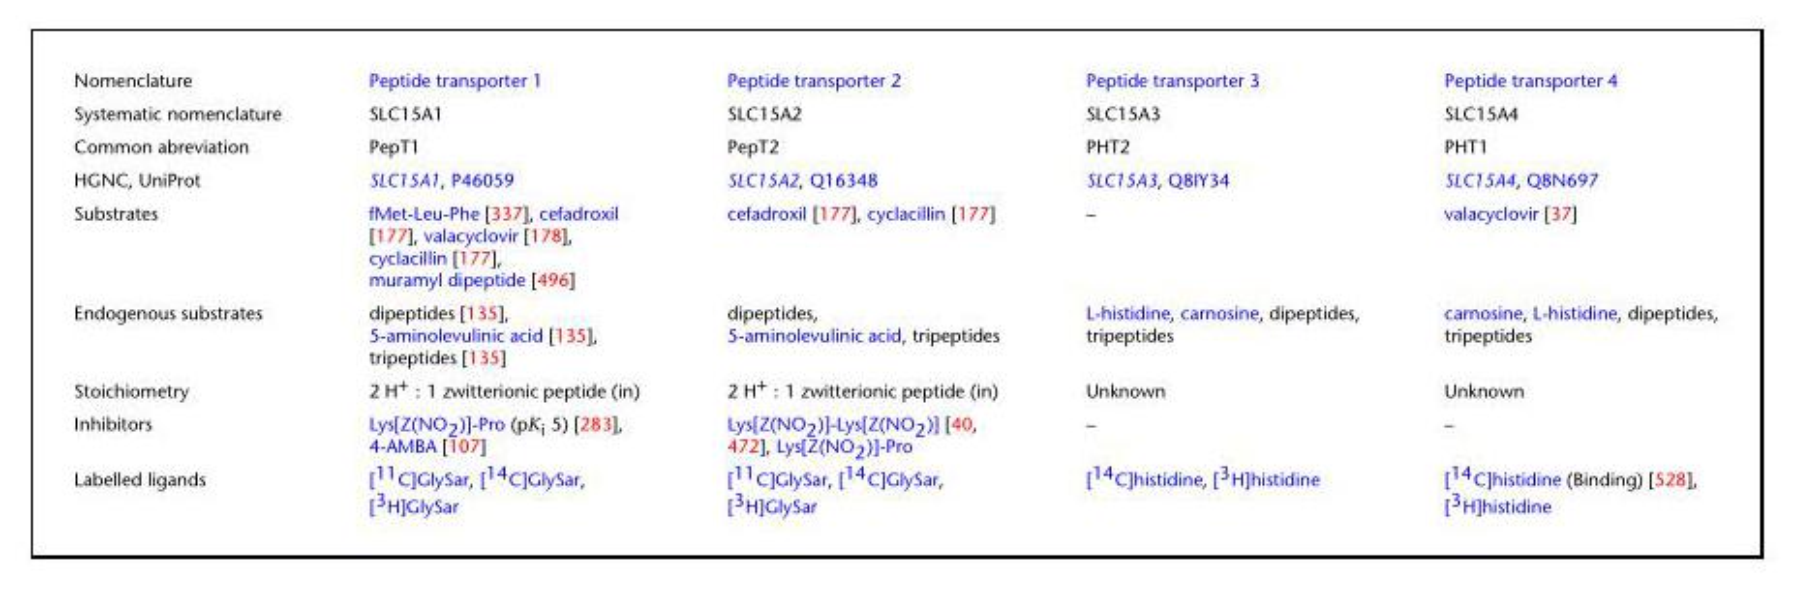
<table><tbody><tr><td>Nomenclature</td><td>Peptide transporter 1</td><td>Peptide transporter 2</td><td>Peptide transporter 3</td><td>Peptide transporter 4</td></tr><tr><td>Systematic nomenclature</td><td>SLC15A1</td><td>SLC15A2</td><td>SLC15A3</td><td>SLC15A4</td></tr><tr><td>Common abreviation</td><td>PepT1</td><td>PepT2</td><td>PHT2</td><td>PHT1</td></tr><tr><td>HGNC, UniProt</td><td>SLC15A1, P46059</td><td>SLC15A2, Q16348</td><td>SLC15A3, Q8IY34</td><td>SLC15A4, Q8N697</td></tr><tr><td>Substrates</td><td>fMet-Leu-Phe [337], cefadroxil [177], valacyclovir [178], cyclacillin [177], muramyl dipeptide [496]</td><td>cefadroxil [177], cyclacillin [177]</td><td>–</td><td>valacyclovir [37]</td></tr><tr><td>Endogenous substrates</td><td>dipeptides [135], 5-aminolevulinic acid [135], tripeptides [135]</td><td>dipeptides, 5-aminolevulinic acid, tripeptides</td><td>L-histidine, carnosine, dipeptides, tripeptides</td><td>carnosine, L-histidine, dipeptides, tripeptides</td></tr><tr><td>Stoichiometry</td><td>2 H<sup>+</sup> : 1 zwitterionic peptide (in)</td><td>2 H<sup>+</sup> : 1 zwitterionic peptide (in)</td><td>Unknown</td><td>Unknown</td></tr><tr><td>Inhibitors</td><td>Lys[Z(NO<sub>2</sub>)]-Pro (pK<sub>i</sub> 5) [283], 4-AMBA [107]</td><td>Lys[Z(NO<sub>2</sub>)]-Lys[Z(NO<sub>2</sub>)] [40, 472], Lys[Z(NO<sub>2</sub>)]-Pro</td><td>–</td><td>–</td></tr><tr><td>Labelled ligands</td><td>[<sup>11</sup>C]GlySar, [<sup>14</sup>C]GlySar, [<sup>3</sup>H]GlySar</td><td>[<sup>11</sup>C]GlySar, [<sup>14</sup>C]GlySar, [<sup>3</sup>H]GlySar</td><td>[<sup>14</sup>C]histidine, [<sup>3</sup>H]histidine</td><td>[<sup>14</sup>C]histidine (Binding) [528], [<sup>3</sup>H]histidine</td></tr></tbody></table>